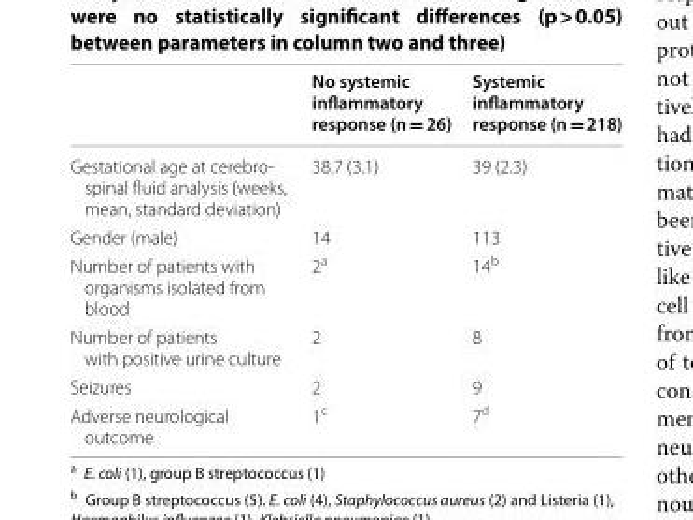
<table><thead><tr><td></td><td>No systemic inflammatory response (n = 26)</td><td>Systemic inflammatory response (n = 218)</td></tr></thead><tbody><tr><td>Gestational age at cerebro- spinal fluid analysis (weeks, mean, standard deviation)</td><td>38.7 (3.1)</td><td>39 (2.3)</td></tr><tr><td>Gender (male)</td><td>14</td><td>113</td></tr><tr><td>Number of patients with organisms isolated from blood</td><td>2<sup>a</sup></td><td>14<sup>b</sup></td></tr><tr><td>Number of patients with positive urine culture</td><td>2</td><td>8</td></tr><tr><td>Seizures</td><td>2</td><td>9</td></tr><tr><td>Adverse neurological outcome</td><td>1<sup>c</sup></td><td>7<sup>d</sup></td></tr></tbody></table>